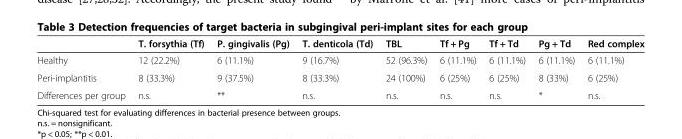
<table><thead><tr><td></td><td>T. forsythia (Tf)</td><td>P. gingivalis (Pg)</td><td>T. denticola (Td)</td><td>TBL</td><td>Tf + Pg</td><td>Tf + Td</td><td>Pg + Td</td><td>Red complex</td></tr></thead><tbody><tr><td>Healthy</td><td>12 (22.2%)</td><td>6 (11.1%)</td><td>9 (16.7%)</td><td>52 (96.3%)</td><td>6 (11.1%)</td><td>6 (11.1%)</td><td>6 (11.1%)</td><td>6 (11.1%)</td></tr><tr><td>Peri-implantitis</td><td>8 (33.3%)</td><td>9 (37.5%)</td><td>8 (33.3%)</td><td>24 (100%)</td><td>6 (25%)</td><td>6 (25%)</td><td>8 (33%)</td><td>6 (25%)</td></tr><tr><td>Differences per group</td><td>n.s.</td><td>**</td><td>n.s.</td><td>n.s.</td><td>n.s.</td><td>n.s.</td><td>*</td><td>n.s.</td></tr></tbody></table>